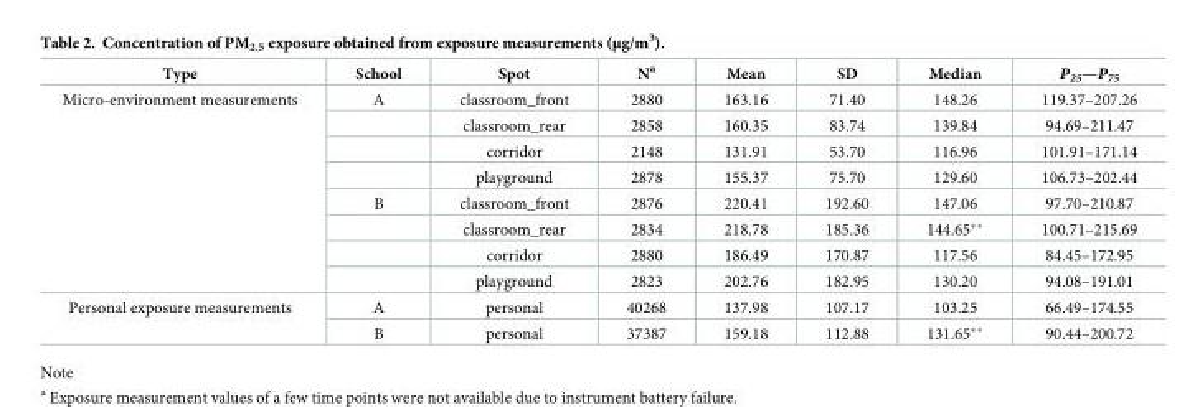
<table><thead><tr><td>Type</td><td>School</td><td>Spot</td><td>N<sup>a</sup></td><td>Mean</td><td>SD</td><td>Median</td><td>P<sub>25</sub>—P<sub>75</sub></td></tr></thead><tbody><tr><td rowspan="8">Micro-environment measurements</td><td>A</td><td>classroom_front</td><td>2880</td><td>163.16</td><td>71.40</td><td>148.26</td><td>119.37–207.26</td></tr><tr><td></td><td>classroom_rear</td><td>2858</td><td>160.35</td><td>83.74</td><td>139.84</td><td>94.69–211.47</td></tr><tr><td></td><td>corridor</td><td>2148</td><td>131.91</td><td>53.70</td><td>116.96</td><td>101.91–171.14</td></tr><tr><td></td><td>playground</td><td>2878</td><td>155.37</td><td>75.70</td><td>129.60</td><td>106.73–202.44</td></tr><tr><td>B</td><td>classroom_front</td><td>2876</td><td>220.41</td><td>192.60</td><td>147.06</td><td>97.70–210.87</td></tr><tr><td></td><td>classroom_rear</td><td>2834</td><td>218.78</td><td>185.36</td><td>144.65**</td><td>100.71–215.69</td></tr><tr><td></td><td>corridor</td><td>2880</td><td>186.49</td><td>170.87</td><td>117.56</td><td>84.45–172.95</td></tr><tr><td></td><td>playground</td><td>2823</td><td>202.76</td><td>182.95</td><td>130.20</td><td>94.08–191.01</td></tr><tr><td rowspan="2">Personal exposure measurements</td><td>A</td><td>personal</td><td>40268</td><td>137.98</td><td>107.17</td><td>103.25</td><td>66.49–174.55</td></tr><tr><td>B</td><td>personal</td><td>37387</td><td>159.18</td><td>112.88</td><td>131.65**</td><td>90.44–200.72</td></tr></tbody></table>